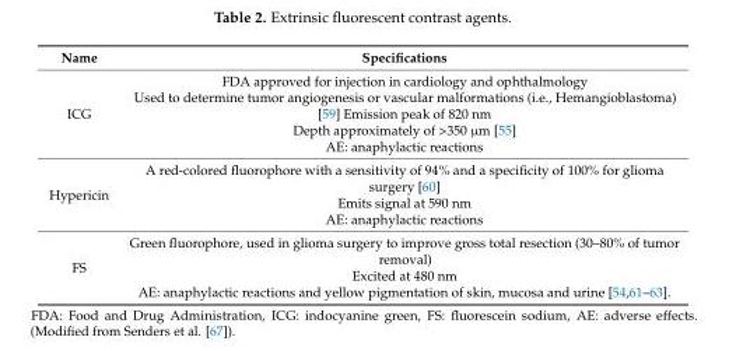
<table><thead><tr><td>Name</td><td>Specifications</td></tr></thead><tbody><tr><td>ICG</td><td>FDA approved for injection in cardiology and ophthalmology Used to determine tumor angiogenesis or vascular malformations (i.e., Hemangioblastoma) [59] Emission peak of 820 nm Depth approximately of &gt;350 µm [55] AE: anaphylactic reactions</td></tr><tr><td>Hypericin</td><td>A red-colored fluorophore with a sensitivity of 94% and a specificity of 100% for glioma surgery [60] Emits signal at 590 nm AE: anaphylactic reactions</td></tr><tr><td>FS</td><td>Green fluorophore, used in glioma surgery to improve gross total resection (30–80% of tumor removal) Excited at 480 nm AE: anaphylactic reactions and yellow pigmentation of skin, mucosa and urine [54,61–63].</td></tr></tbody></table>